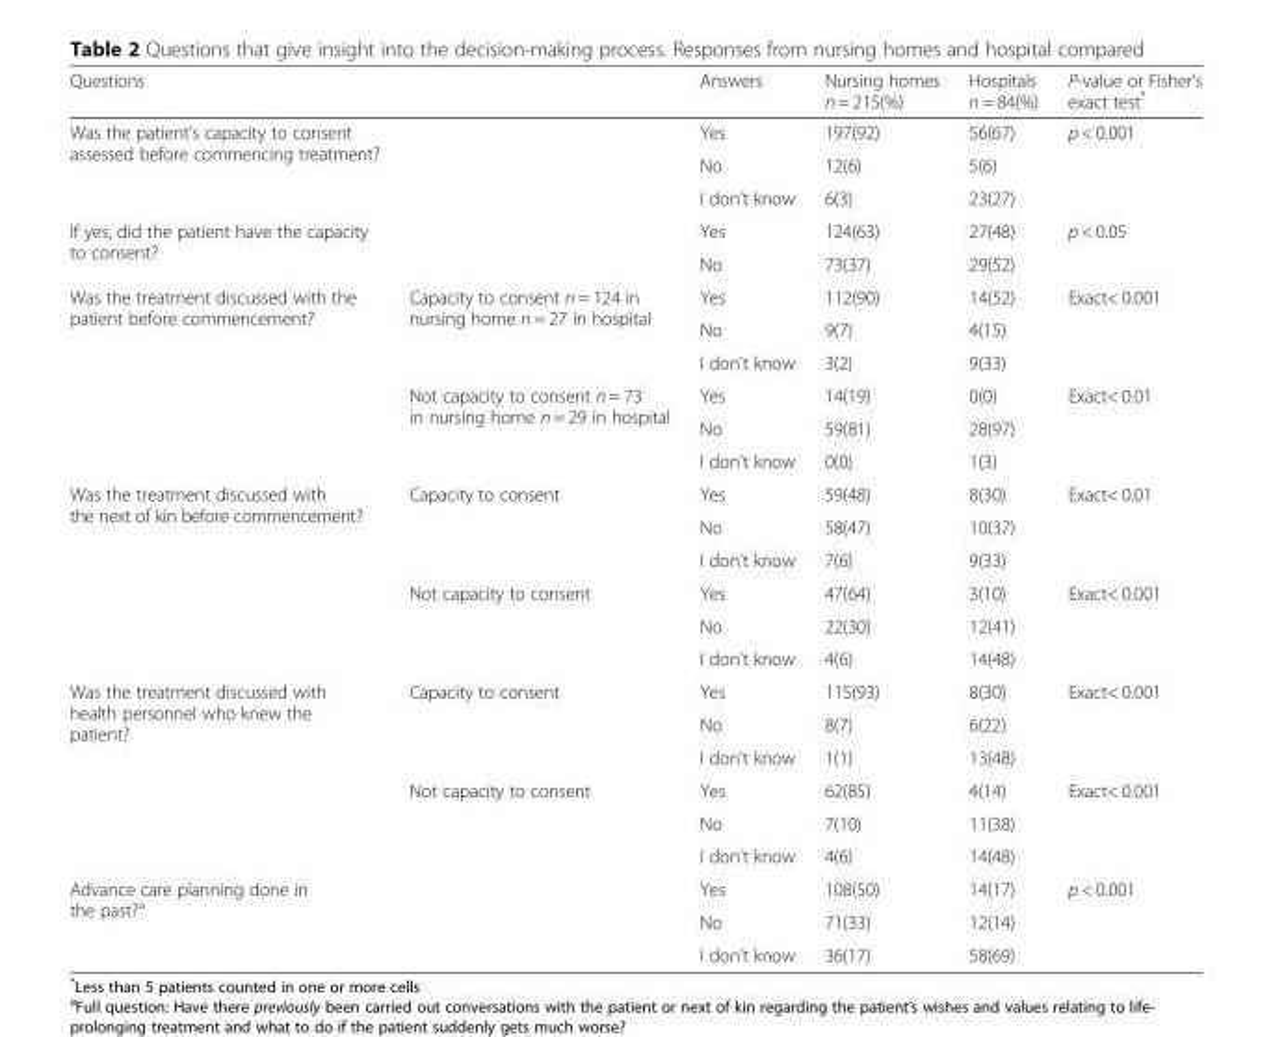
<table><thead><tr><td>Questions</td><td></td><td>Answers</td><td>Nursing homes n = 215(%)</td><td>Hospitals n = 84(%)</td><td>P-value or Fisher’s exact test*</td></tr></thead><tbody><tr><td rowspan="3">Was the patient’s capacity to consent assessed before commencing treatment?</td><td rowspan="3"></td><td>Yes</td><td>197(92)</td><td>56(67)</td><td rowspan="3">p &lt; 0.001</td></tr><tr><td>No</td><td>12(6)</td><td>5(6)</td></tr><tr><td>I don’t know</td><td>6(3)</td><td>23(27)</td></tr><tr><td rowspan="2">If yes, did the patient have the capacity to consent?</td><td rowspan="2"></td><td>Yes</td><td>124(63)</td><td>27(48)</td><td rowspan="2">p &lt; 0.05</td></tr><tr><td>No</td><td>73(37)</td><td>29(52)</td></tr><tr><td rowspan="6">Was the treatment discussed with the patient before commencement?</td><td rowspan="3">Capacity to consent n = 124 in nursing home n = 27 in hospital</td><td>Yes</td><td>112(90)</td><td>14(52)</td><td rowspan="3">Exact&lt; 0.001</td></tr><tr><td>No</td><td>9(7)</td><td>4(15)</td></tr><tr><td>I don’t know</td><td>3(2)</td><td>9(33)</td></tr><tr><td rowspan="3">Not capacity to consent n = 73 in nursing home n = 29 in hospital</td><td>Yes</td><td>14(19)</td><td>0(0)</td><td rowspan="3">Exact&lt; 0.01</td></tr><tr><td>No</td><td>59(81)</td><td>28(97)</td></tr><tr><td>I don’t know</td><td>0(0)</td><td>1(3)</td></tr><tr><td rowspan="6">Was the treatment discussed with the next of kin before commencement?</td><td rowspan="3">Capacity to consent</td><td>Yes</td><td>59(48)</td><td>8(30)</td><td rowspan="3">Exact&lt; 0.01</td></tr><tr><td>No</td><td>58(47)</td><td>10(37)</td></tr><tr><td>I don’t know</td><td>7(6)</td><td>9(33)</td></tr><tr><td rowspan="3">Not capacity to consent</td><td>Yes</td><td>47(64)</td><td>3(10)</td><td rowspan="3">Exact&lt; 0.001</td></tr><tr><td>No</td><td>22(30)</td><td>12(41)</td></tr><tr><td>I don’t know</td><td>4(6)</td><td>14(48)</td></tr><tr><td rowspan="6">Was the treatment discussed with health personnel who knew the patient?</td><td rowspan="3">Capacity to consent</td><td>Yes</td><td>115(93)</td><td>8(30)</td><td rowspan="3">Exact&lt; 0.001</td></tr><tr><td>No</td><td>8(7)</td><td>6(22)</td></tr><tr><td>I don’t know</td><td>1(1)</td><td>13(48)</td></tr><tr><td rowspan="3">Not capacity to consent</td><td>Yes</td><td>62(85)</td><td>4(14)</td><td rowspan="3">Exact&lt; 0.001</td></tr><tr><td>No</td><td>7(10)</td><td>11(38)</td></tr><tr><td>I don’t know</td><td>4(6)</td><td>14(48)</td></tr><tr><td rowspan="3">Advance care planning done in the past?<sup>a</sup></td><td rowspan="3"></td><td>Yes</td><td>108(50)</td><td>14(17)</td><td rowspan="3">p &lt; 0.001</td></tr><tr><td>No</td><td>71(33)</td><td>12(14)</td></tr><tr><td>I don’t know</td><td>36(17)</td><td>58(69)</td></tr></tbody></table>